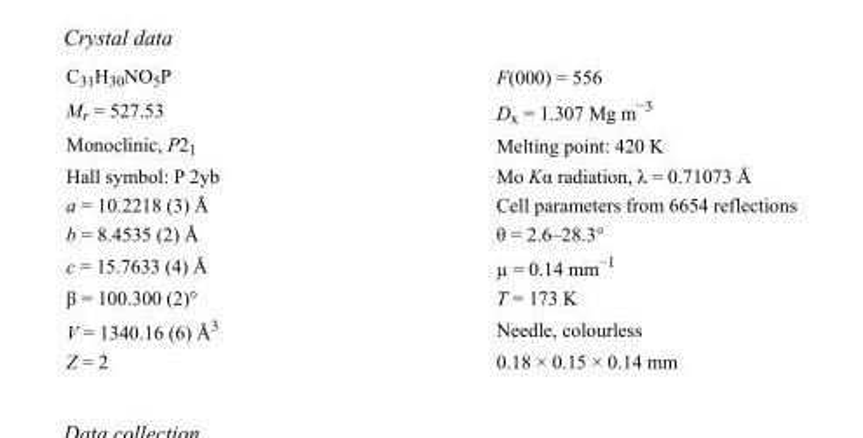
<table><tbody><tr><td>C<sub>31</sub>H<sub>30</sub>NO<sub>5</sub>P</td><td>F(000) = 556</td></tr><tr><td>M<sub>r</sub> = 527.53</td><td>D<sub>x</sub> = 1.307 Mg m<sup>−3</sup></td></tr><tr><td>Monoclinic, P2<sub>1</sub></td><td>Melting point: 420 K</td></tr><tr><td>Hall symbol: P 2yb</td><td>Mo Kα radiation, λ = 0.71073 Å</td></tr><tr><td>a = 10.2218 (3) Å</td><td>Cell parameters from 6654 reflections</td></tr><tr><td>b = 8.4535 (2) Å</td><td>θ = 2.6–28.3°</td></tr><tr><td>c = 15.7633 (4) Å</td><td>µ = 0.14 mm<sup>−1</sup></td></tr><tr><td>β = 100.300 (2)°</td><td>T = 173 K</td></tr><tr><td>V = 1340.16 (6) Å<sup>3</sup></td><td>Needle, colourless</td></tr><tr><td>Z = 2</td><td>0.18 × 0.15 × 0.14 mm</td></tr></tbody></table>